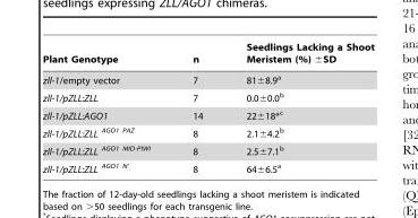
<table><thead><tr><td>Plant Genotype</td><td>n</td><td>Seedlings Lacking a Shoot Meristem (%) ±SD</td></tr></thead><tbody><tr><td>zll-1/empty vector</td><td>7</td><td>81±8.9<sup>a</sup></td></tr><tr><td>zll-1/pZLL:ZLL</td><td>7</td><td>0.0±0.0<sup>b</sup></td></tr><tr><td>zll-1/pZLL:AGO1</td><td>14</td><td>22±18*c</td></tr><tr><td>zll-1/pZLL:ZLL <sup>AGO1 PAZ</sup></td><td>8</td><td>2.1±4.2<sup>b</sup></td></tr><tr><td>zll-1/pZLL:ZLL <sup>AGO1 MID-PIWI</sup></td><td>8</td><td>2.5±7.1<sup>b</sup></td></tr><tr><td>zll-1/pZLL:ZLL <sup>AGO1 N′</sup></td><td>8</td><td>64±6.5<sup>a</sup></td></tr></tbody></table>